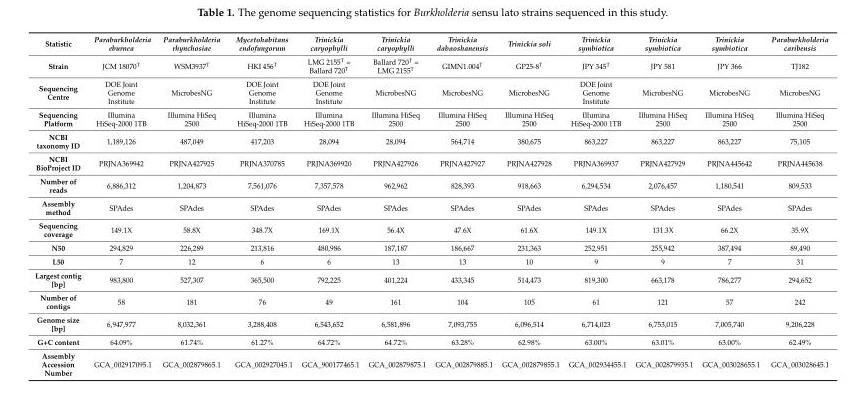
<table><thead><tr><td>Statistic</td><td>Paraburkholderia eburnea</td><td>Paraburkholderia rhynchosiae</td><td>Mycetohabitans endofungorum</td><td>Trinickia caryophylli</td><td>Trinickia caryophylli</td><td>Trinickia dabaoshanensis</td><td>Trinickia soli</td><td>Trinickia symbiotica</td><td>Trinickia symbiotica</td><td>Trinickia symbiotica</td><td>Paraburkholderia caribensis</td></tr></thead><tbody><tr><td>Strain</td><td>JCM 18070<sup>T</sup></td><td>WSM3937<sup>T</sup></td><td>HKI 456<sup>T</sup></td><td>LMG 2155<sup>T</sup> = Ballard 720<sup>T</sup></td><td>Ballard 720<sup>T</sup> = LMG 2155<sup>T</sup></td><td>GIMN1.004<sup>T</sup></td><td>GP25-8<sup>T</sup></td><td>JPY 345<sup>T</sup></td><td>JPY 581</td><td>JPY 366</td><td>TJ182</td></tr><tr><td>Sequencing Centre</td><td>DOE Joint Genome Institute</td><td>MicrobesNG</td><td>DOE Joint Genome Institute</td><td>DOE Joint Genome Institute</td><td>MicrobesNG</td><td>MicrobesNG</td><td>MicrobesNG</td><td>DOE Joint Genome Institute</td><td>MicrobesNG</td><td>MicrobesNG</td><td>MicrobesNG</td></tr><tr><td>Sequencing Platform</td><td>Illumina HiSeq-2000 1TB</td><td>Illumina HiSeq 2500</td><td>Illumina HiSeq-2000 1TB</td><td>Illumina HiSeq-2000 1TB</td><td>Illumina HiSeq 2500</td><td>Illumina HiSeq 2500</td><td>Illumina HiSeq 2500</td><td>Illumina HiSeq-2000 1TB</td><td>Illumina HiSeq 2500</td><td>Illumina HiSeq 2500</td><td>Illumina HiSeq 2500</td></tr><tr><td>NCBI taxonomy ID</td><td>1,189,126</td><td>487,049</td><td>417,203</td><td>28,094</td><td>28,094</td><td>564,714</td><td>380,675</td><td>863,227</td><td>863,227</td><td>863,227</td><td>75,105</td></tr><tr><td>NCBI BioProject ID</td><td>PRJNA369942</td><td>PRJNA427925</td><td>PRJNA370785</td><td>PRJNA369920</td><td>PRJNA427926</td><td>PRJNA427927</td><td>PRJNA427928</td><td>PRJNA369937</td><td>PRJNA427929</td><td>PRJNA445642</td><td>PRJNA445638</td></tr><tr><td>Number of reads</td><td>6,886,312</td><td>1,204,873</td><td>7,561,076</td><td>7,357,578</td><td>962,962</td><td>828,393</td><td>918,663</td><td>6,294,534</td><td>2,076,457</td><td>1,180,541</td><td>809,533</td></tr><tr><td>Assembly method</td><td>SPAdes</td><td>SPAdes</td><td>SPAdes</td><td>SPAdes</td><td>SPAdes</td><td>SPAdes</td><td>SPAdes</td><td>SPAdes</td><td>SPAdes</td><td>SPAdes</td><td>SPAdes</td></tr><tr><td>Sequencing coverage</td><td>149.1X</td><td>58.8X</td><td>348.7X</td><td>169.1X</td><td>56.4X</td><td>47.6X</td><td>61.6X</td><td>149.1X</td><td>131.3X</td><td>66.2X</td><td>35.9X</td></tr><tr><td>N50</td><td>294,829</td><td>226,289</td><td>213,816</td><td>480,986</td><td>187,187</td><td>186,667</td><td>231,363</td><td>252,951</td><td>255,942</td><td>387,494</td><td>89,490</td></tr><tr><td>L50</td><td>7</td><td>12</td><td>6</td><td>6</td><td>13</td><td>13</td><td>10</td><td>9</td><td>9</td><td>7</td><td>31</td></tr><tr><td>Largest contig [bp]</td><td>983,800</td><td>527,307</td><td>365,500</td><td>792,225</td><td>401,224</td><td>433,345</td><td>514,473</td><td>819,300</td><td>663,178</td><td>786,277</td><td>294,652</td></tr><tr><td>Number of contigs</td><td>58</td><td>181</td><td>76</td><td>49</td><td>161</td><td>104</td><td>105</td><td>61</td><td>121</td><td>57</td><td>242</td></tr><tr><td>Genome size [bp]</td><td>6,947,977</td><td>8,032,361</td><td>3,288,408</td><td>6,543,652</td><td>6,581,896</td><td>7,093,755</td><td>6,096,514</td><td>6,714,023</td><td>6,753,015</td><td>7,005,740</td><td>9,206,228</td></tr><tr><td>G+C content</td><td>64.09%</td><td>61.74%</td><td>61.27%</td><td>64.72%</td><td>64.72%</td><td>63.28%</td><td>62.98%</td><td>63.00%</td><td>63.01%</td><td>63.00%</td><td>62.49%</td></tr><tr><td>Assembly Accession Number</td><td>GCA_002917095.1</td><td>GCA_002879865.1</td><td>GCA_002927045.1</td><td>GCA_900177465.1</td><td>GCA_002879875.1</td><td>GCA_002879885.1</td><td>GCA_002879855.1</td><td>GCA_002934455.1</td><td>GCA_002879935.1</td><td>GCA_003028655.1</td><td>GCA_003028645.1</td></tr></tbody></table>